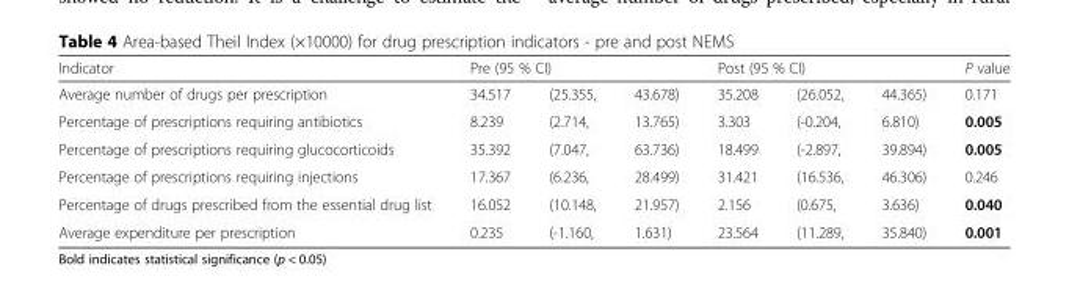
<table><thead><tr><td rowspan="2">Indicator Average number of drugs per prescription</td><td colspan="3">Pre (95 % CI)</td><td colspan="3">Post (95 % CI)</td><td rowspan="2">P value 0.171</td></tr><tr><td>34.517</td><td>(25.355,</td><td>43.678)</td><td>35.208</td><td>(26.052,</td><td>44.365)</td></tr></thead><tbody><tr><td>Percentage of prescriptions requiring antibiotics</td><td>8.239</td><td>(2.714,</td><td>13.765)</td><td>3.303</td><td>(-0.204,</td><td>6.810)</td><td>0.005</td></tr><tr><td>Percentage of prescriptions requiring glucocorticoids</td><td>35.392</td><td>(7.047,</td><td>63.736)</td><td>18.499</td><td>(-2.897,</td><td>39.894)</td><td>0.005</td></tr><tr><td>Percentage of prescriptions requiring injections</td><td>17.367</td><td>(6.236,</td><td>28.499)</td><td>31.421</td><td>(16.536,</td><td>46.306)</td><td>0.246</td></tr><tr><td>Percentage of drugs prescribed from the essential drug list</td><td>16.052</td><td>(10.148,</td><td>21.957)</td><td>2.156</td><td>(0.675,</td><td>3.636)</td><td>0.040</td></tr><tr><td>Average expenditure per prescription</td><td>0.235</td><td>(-1.160,</td><td>1.631)</td><td>23.564</td><td>(11.289,</td><td>35.840)</td><td>0.001</td></tr></tbody></table>